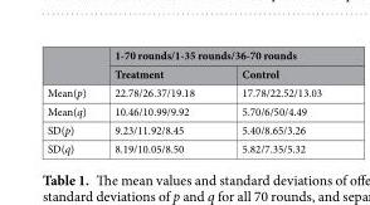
<table><thead><tr><td rowspan="2"></td><td colspan="2">1-70 rounds/1-35 rounds/36-70 rounds</td></tr><tr><td>Treatment</td><td>Control</td></tr></thead><tbody><tr><td>Mean(p)</td><td>22.78/26.37/19.18</td><td>17.78/22.52/13.03</td></tr><tr><td>Mean(q)</td><td>10.46/10.99/9.92</td><td>5.70/6/50/4.49</td></tr><tr><td>SD(p)</td><td>9.23/11.92/8.45</td><td>5.40/8.65/3.26</td></tr><tr><td>SD(q)</td><td>8.19/10.05/8.50</td><td>5.82/7.35/5.32</td></tr></tbody></table>